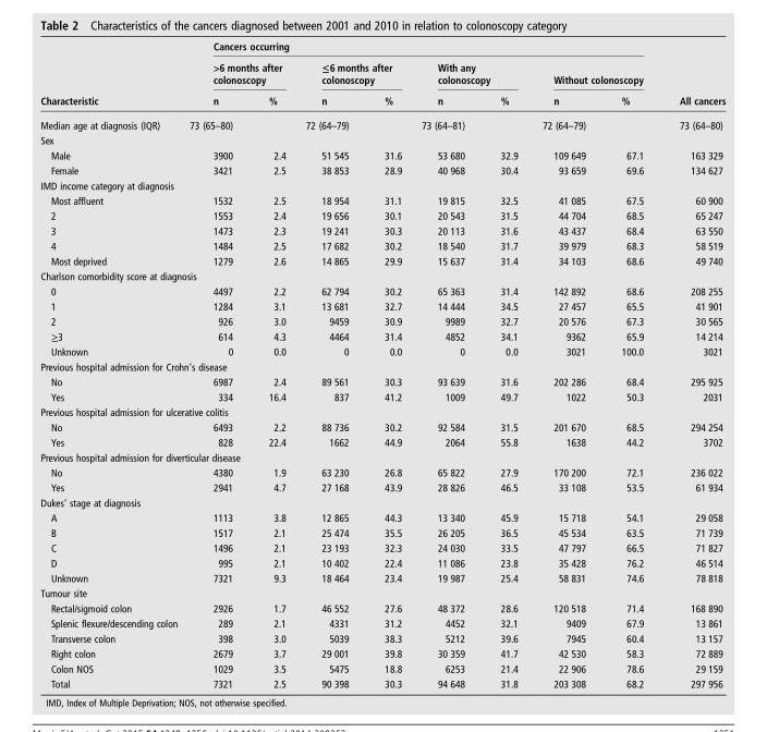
<table><thead><tr><td rowspan="3">Characteristic</td><td colspan="8">Cancers occurring</td><td rowspan="3">All cancers</td></tr><tr><td colspan="2">&gt;6 months after colonoscopy</td><td colspan="2">≤6 months after colonoscopy</td><td colspan="2">With any colonoscopy</td><td colspan="2">Without colonoscopy</td></tr><tr><td>n</td><td>%</td><td>n</td><td>%</td><td>n</td><td>%</td><td>n</td><td>%</td></tr></thead><tbody><tr><td>Median age at diagnosis (IQR)</td><td colspan="2">73 (65–80)</td><td colspan="2">72 (64–79)</td><td colspan="2">73 (64–81)</td><td colspan="2">72 (64–79)</td><td>73 (64–80)</td></tr><tr><td colspan="10">Sex</td></tr><tr><td>Male</td><td>3900</td><td>2.4</td><td>51 545</td><td>31.6</td><td>53 680</td><td>32.9</td><td>109 649</td><td>67.1</td><td>163 329</td></tr><tr><td>Female</td><td>3421</td><td>2.5</td><td>38 853</td><td>28.9</td><td>40 968</td><td>30.4</td><td>93 659</td><td>69.6</td><td>134 627</td></tr><tr><td colspan="10">IMD income category at diagnosis</td></tr><tr><td>Most affluent</td><td>1532</td><td>2.5</td><td>18 954</td><td>31.1</td><td>19 815</td><td>32.5</td><td>41 085</td><td>67.5</td><td>60 900</td></tr><tr><td>2</td><td>1553</td><td>2.4</td><td>19 656</td><td>30.1</td><td>20 543</td><td>31.5</td><td>44 704</td><td>68.5</td><td>65 247</td></tr><tr><td>3</td><td>1473</td><td>2.3</td><td>19 241</td><td>30.3</td><td>20 113</td><td>31.6</td><td>43 437</td><td>68.4</td><td>63 550</td></tr><tr><td>4</td><td>1484</td><td>2.5</td><td>17 682</td><td>30.2</td><td>18 540</td><td>31.7</td><td>39 979</td><td>68.3</td><td>58 519</td></tr><tr><td>Most deprived</td><td>1279</td><td>2.6</td><td>14 865</td><td>29.9</td><td>15 637</td><td>31.4</td><td>34 103</td><td>68.6</td><td>49 740</td></tr><tr><td colspan="10">Charlson comorbidity score at diagnosis</td></tr><tr><td>0</td><td>4497</td><td>2.2</td><td>62 794</td><td>30.2</td><td>65 363</td><td>31.4</td><td>142 892</td><td>68.6</td><td>208 255</td></tr><tr><td>1</td><td>1284</td><td>3.1</td><td>13 681</td><td>32.7</td><td>14 444</td><td>34.5</td><td>27 457</td><td>65.5</td><td>41 901</td></tr><tr><td>2</td><td>926</td><td>3.0</td><td>9459</td><td>30.9</td><td>9989</td><td>32.7</td><td>20 576</td><td>67.3</td><td>30 565</td></tr><tr><td>≥3</td><td>614</td><td>4.3</td><td>4464</td><td>31.4</td><td>4852</td><td>34.1</td><td>9362</td><td>65.9</td><td>14 214</td></tr><tr><td>Unknown</td><td>0</td><td>0.0</td><td>0</td><td>0.0</td><td>0</td><td>0.0</td><td>3021</td><td>100.0</td><td>3021</td></tr><tr><td colspan="10">Previous hospital admission for Crohn’s disease</td></tr><tr><td>No</td><td>6987</td><td>2.4</td><td>89 561</td><td>30.3</td><td>93 639</td><td>31.6</td><td>202 286</td><td>68.4</td><td>295 925</td></tr><tr><td>Yes</td><td>334</td><td>16.4</td><td>837</td><td>41.2</td><td>1009</td><td>49.7</td><td>1022</td><td>50.3</td><td>2031</td></tr><tr><td colspan="10">Previous hospital admission for ulcerative colitis</td></tr><tr><td>No</td><td>6493</td><td>2.2</td><td>88 736</td><td>30.2</td><td>92 584</td><td>31.5</td><td>201 670</td><td>68.5</td><td>294 254</td></tr><tr><td>Yes</td><td>828</td><td>22.4</td><td>1662</td><td>44.9</td><td>2064</td><td>55.8</td><td>1638</td><td>44.2</td><td>3702</td></tr><tr><td colspan="10">Previous hospital admission for diverticular disease</td></tr><tr><td>No</td><td>4380</td><td>1.9</td><td>63 230</td><td>26.8</td><td>65 822</td><td>27.9</td><td>170 200</td><td>72.1</td><td>236 022</td></tr><tr><td>Yes</td><td>2941</td><td>4.7</td><td>27 168</td><td>43.9</td><td>28 826</td><td>46.5</td><td>33 108</td><td>53.5</td><td>61 934</td></tr><tr><td colspan="10">Dukes’ stage at diagnosis</td></tr><tr><td>A</td><td>1113</td><td>3.8</td><td>12 865</td><td>44.3</td><td>13 340</td><td>45.9</td><td>15 718</td><td>54.1</td><td>29 058</td></tr><tr><td>B</td><td>1517</td><td>2.1</td><td>25 474</td><td>35.5</td><td>26 205</td><td>36.5</td><td>45 534</td><td>63.5</td><td>71 739</td></tr><tr><td>C</td><td>1496</td><td>2.1</td><td>23 193</td><td>32.3</td><td>24 030</td><td>33.5</td><td>47 797</td><td>66.5</td><td>71 827</td></tr><tr><td>D</td><td>995</td><td>2.1</td><td>10 402</td><td>22.4</td><td>11 086</td><td>23.8</td><td>35 428</td><td>76.2</td><td>46 514</td></tr><tr><td>Unknown</td><td>7321</td><td>9.3</td><td>18 464</td><td>23.4</td><td>19 987</td><td>25.4</td><td>58 831</td><td>74.6</td><td>78 818</td></tr><tr><td colspan="10">Tumour site</td></tr><tr><td>Rectal/sigmoid colon</td><td>2926</td><td>1.7</td><td>46 552</td><td>27.6</td><td>48 372</td><td>28.6</td><td>120 518</td><td>71.4</td><td>168 890</td></tr><tr><td>Splenic flexure/descending colon</td><td>289</td><td>2.1</td><td>4331</td><td>31.2</td><td>4452</td><td>32.1</td><td>9409</td><td>67.9</td><td>13 861</td></tr><tr><td>Transverse colon</td><td>398</td><td>3.0</td><td>5039</td><td>38.3</td><td>5212</td><td>39.6</td><td>7945</td><td>60.4</td><td>13 157</td></tr><tr><td>Right colon</td><td>2679</td><td>3.7</td><td>29 001</td><td>39.8</td><td>30 359</td><td>41.7</td><td>42 530</td><td>58.3</td><td>72 889</td></tr><tr><td>Colon NOS</td><td>1029</td><td>3.5</td><td>5475</td><td>18.8</td><td>6253</td><td>21.4</td><td>22 906</td><td>78.6</td><td>29 159</td></tr><tr><td>Total</td><td>7321</td><td>2.5</td><td>90 398</td><td>30.3</td><td>94 648</td><td>31.8</td><td>203 308</td><td>68.2</td><td>297 956</td></tr></tbody></table>